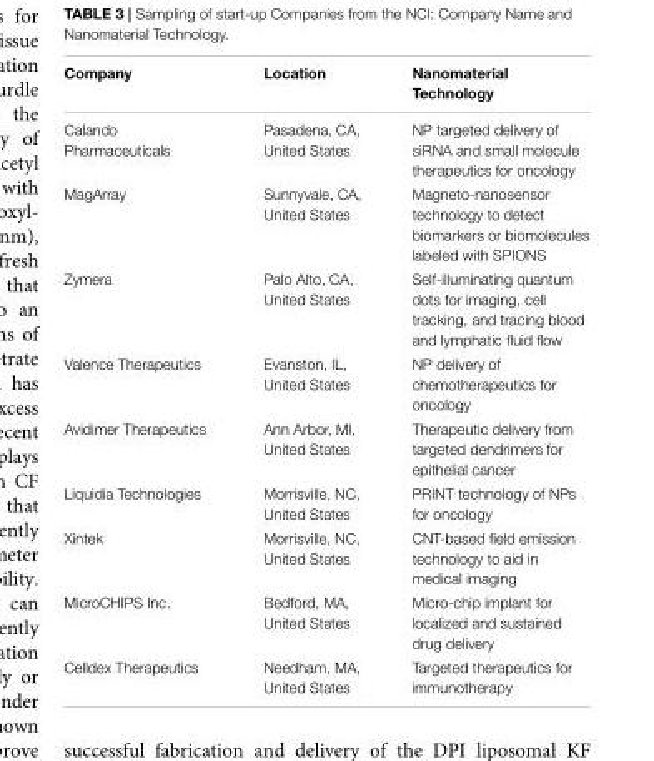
<table><thead><tr><td>Company</td><td>Location</td><td>Nanomaterial Technology</td></tr></thead><tbody><tr><td>Calando Pharmaceuticals</td><td>Pasadena, CA, United States</td><td>NP targeted delivery of siRNA and small molecule therapeutics for oncology</td></tr><tr><td>MagArray</td><td>Sunnyvale, CA, United States</td><td>Magneto-nanosensor technology to detect biomarkers or biomolecules labeled with SPIONS</td></tr><tr><td>Zymera</td><td>Palo Alto, CA, United States</td><td>Self-illuminating quantum dots for imaging, cell tracking, and tracing blood and lymphatic fluid flow</td></tr><tr><td>Valence Therapeutics</td><td>Evanston, IL, United States</td><td>NP delivery of chemotherapeutics for oncology</td></tr><tr><td>Avidimer Therapeutics</td><td>Ann Arbor, MI, United States</td><td>Therapeutic delivery from targeted dendrimers for epithelial cancer</td></tr><tr><td>Liquidia Technologies</td><td>Morrisville, NC, United States</td><td>PRINT technology of NPs for oncology</td></tr><tr><td>Xintek</td><td>Morrisville, NC, United States</td><td>CNT-based field emission technology to aid in medical imaging</td></tr><tr><td>MicroCHIPS Inc.</td><td>Bedford, MA, United States</td><td>Micro-chip implant for localized and sustained drug delivery</td></tr><tr><td>Celldex Therapeutics</td><td>Needham, MA, United States</td><td>Targeted therapeutics for immunotherapy</td></tr></tbody></table>